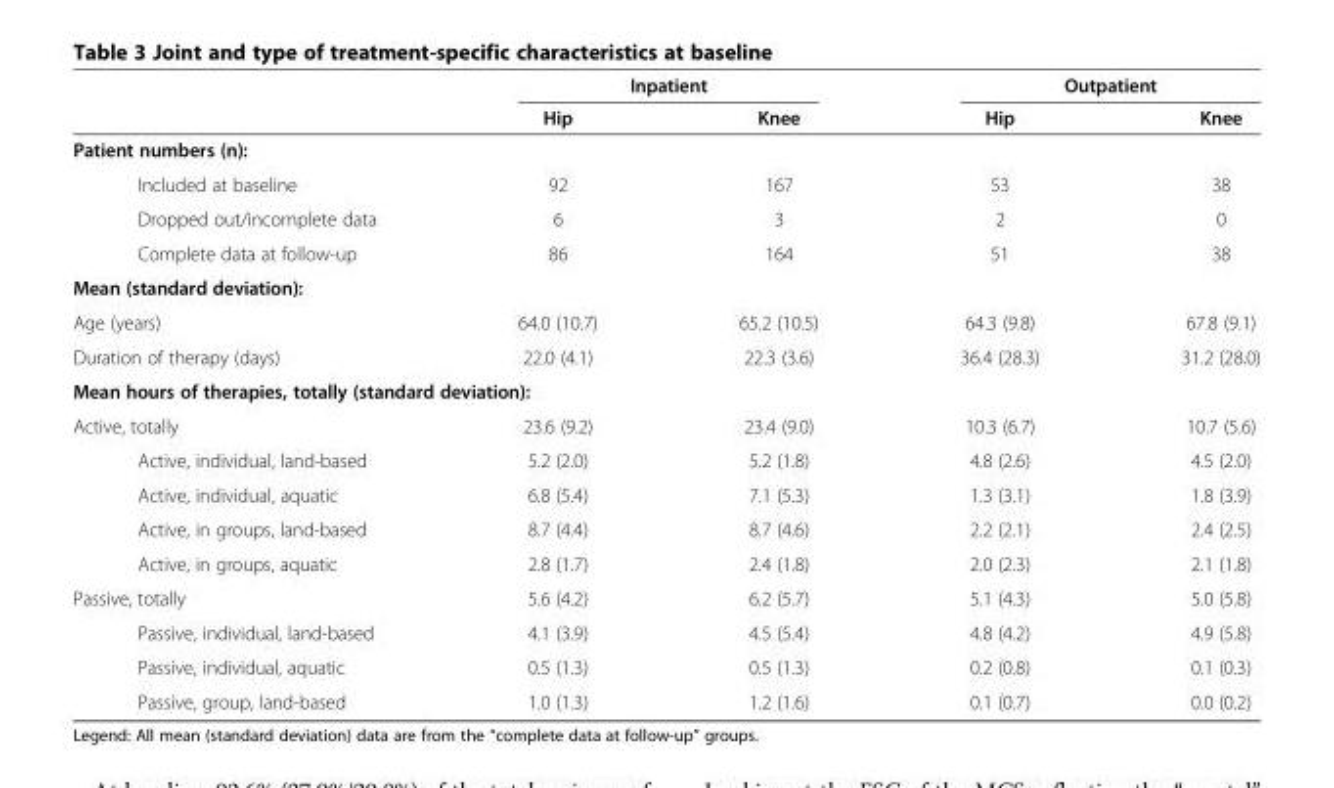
<table><thead><tr><td rowspan="2"></td><td colspan="2">Inpatient</td><td colspan="2">Outpatient</td></tr><tr><td>Hip</td><td>Knee</td><td>Hip</td><td>Knee</td></tr></thead><tbody><tr><td colspan="5">Patient numbers (n):</td></tr><tr><td>Included at baseline</td><td>92</td><td>167</td><td>53</td><td>38</td></tr><tr><td>Dropped out/incomplete data</td><td>6</td><td>3</td><td>2</td><td>0</td></tr><tr><td>Complete data at follow-up</td><td>86</td><td>164</td><td>51</td><td>38</td></tr><tr><td colspan="5">Mean (standard deviation):</td></tr><tr><td>Age (years)</td><td>64.0 (10.7)</td><td>65.2 (10.5)</td><td>64.3 (9.8)</td><td>67.8 (9.1)</td></tr><tr><td>Duration of therapy (days)</td><td>22.0 (4.1)</td><td>22.3 (3.6)</td><td>36.4 (28.3)</td><td>31.2 (28.0)</td></tr><tr><td colspan="5">Mean hours of therapies, totally (standard deviation):</td></tr><tr><td>Active, totally</td><td>23.6 (9.2)</td><td>23.4 (9.0)</td><td>10.3 (6.7)</td><td>10.7 (5.6)</td></tr><tr><td>Active, individual, land-based</td><td>5.2 (2.0)</td><td>5.2 (1.8)</td><td>4.8 (2.6)</td><td>4.5 (2.0)</td></tr><tr><td>Active, individual, aquatic</td><td>6.8 (5.4)</td><td>7.1 (5.3)</td><td>1.3 (3.1)</td><td>1.8 (3.9)</td></tr><tr><td>Active, in groups, land-based</td><td>8.7 (4.4)</td><td>8.7 (4.6)</td><td>2.2 (2.1)</td><td>2.4 (2.5)</td></tr><tr><td>Active, in groups, aquatic</td><td>2.8 (1.7)</td><td>2.4 (1.8)</td><td>2.0 (2.3)</td><td>2.1 (1.8)</td></tr><tr><td>Passive, totally</td><td>5.6 (4.2)</td><td>6.2 (5.7)</td><td>5.1 (4.3)</td><td>5.0 (5.8)</td></tr><tr><td>Passive, individual, land-based</td><td>4.1 (3.9)</td><td>4.5 (5.4)</td><td>4.8 (4.2)</td><td>4.9 (5.8)</td></tr><tr><td>Passive, individual, aquatic</td><td>0.5 (1.3)</td><td>0.5 (1.3)</td><td>0.2 (0.8)</td><td>0.1 (0.3)</td></tr><tr><td>Passive, group, land-based</td><td>1.0 (1.3)</td><td>1.2 (1.6)</td><td>0.1 (0.7)</td><td>0.0 (0.2)</td></tr></tbody></table>